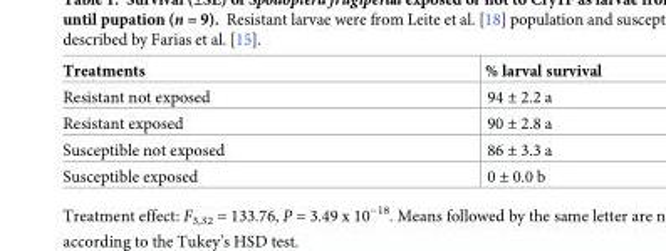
<table><thead><tr><td>Treatments</td><td>% larval survival</td></tr></thead><tbody><tr><td>Resistant not exposed</td><td>94 ± 2.2 a</td></tr><tr><td>Resistant exposed</td><td>90 ± 2.8 a</td></tr><tr><td>Susceptible not exposed</td><td>86 ± 3.3 a</td></tr><tr><td>Susceptible exposed</td><td>0 ± 0.0 b</td></tr></tbody></table>